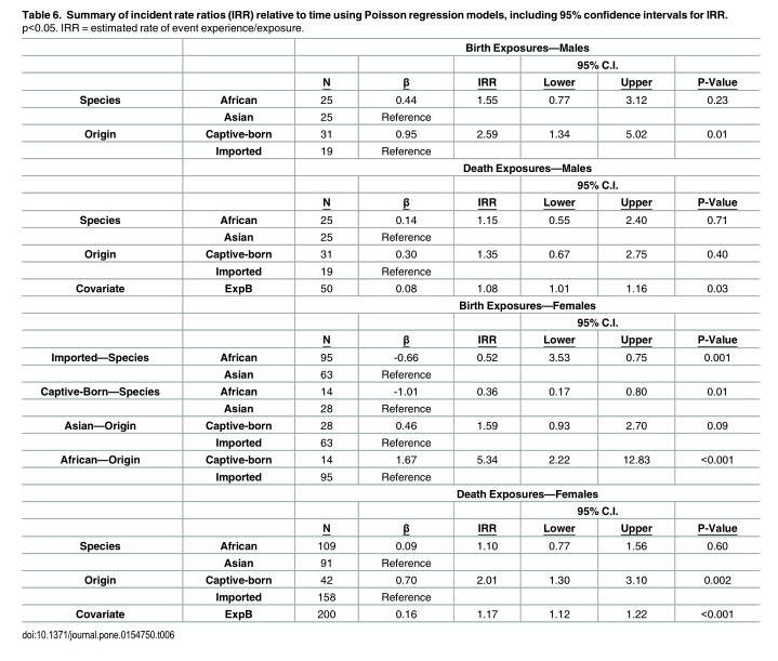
<table><thead><tr><td rowspan="3"></td><td rowspan="3"></td><td colspan="6">Birth Exposures—Males</td></tr><tr><td rowspan="2">N</td><td rowspan="2">β</td><td rowspan="2">IRR</td><td colspan="2">95% C.I.</td><td rowspan="2">P-Value</td></tr><tr><td>Lower</td><td>Upper</td></tr></thead><tbody><tr><td rowspan="2">Species</td><td>African</td><td>25</td><td>0.44</td><td>1.55</td><td>0.77</td><td>3.12</td><td>0.23</td></tr><tr><td>Asian</td><td>25</td><td>Reference</td><td></td><td></td><td></td><td></td></tr><tr><td rowspan="5">Origin</td><td>Captive-born</td><td>31</td><td>0.95</td><td>2.59</td><td>1.34</td><td>5.02</td><td>0.01</td></tr><tr><td>Imported</td><td>19</td><td>Reference</td><td></td><td></td><td></td><td></td></tr><tr><td></td><td colspan="6">Death Exposures—Males</td></tr><tr><td></td><td></td><td></td><td></td><td colspan="2">95% C.I.</td><td></td></tr><tr><td></td><td>N</td><td>β</td><td>IRR</td><td>Lower</td><td>Upper</td><td>P-Value</td></tr><tr><td rowspan="2">Species</td><td>African</td><td>25</td><td>0.14</td><td>1.15</td><td>0.55</td><td>2.40</td><td>0.71</td></tr><tr><td>Asian</td><td>25</td><td>Reference</td><td></td><td></td><td></td><td></td></tr><tr><td rowspan="2">Origin</td><td>Captive-born</td><td>31</td><td>0.30</td><td>1.35</td><td>0.67</td><td>2.75</td><td>0.40</td></tr><tr><td>Imported</td><td>19</td><td>Reference</td><td></td><td></td><td></td><td></td></tr><tr><td rowspan="4">Covariate</td><td>ExpB</td><td>50</td><td>0.08</td><td>1.08</td><td>1.01</td><td>1.16</td><td>0.03</td></tr><tr><td></td><td colspan="6">Birth Exposures—Females</td></tr><tr><td></td><td></td><td></td><td></td><td colspan="2">95% C.I.</td><td></td></tr><tr><td></td><td>N</td><td>β</td><td>IRR</td><td>Lower</td><td>Upper</td><td>P-Value</td></tr><tr><td rowspan="2">Imported—Species</td><td>African</td><td>95</td><td>-0.66</td><td>0.52</td><td>3.53</td><td>0.75</td><td>0.001</td></tr><tr><td>Asian</td><td>63</td><td>Reference</td><td></td><td></td><td></td><td></td></tr><tr><td rowspan="2">Captive-Born—Species</td><td>African</td><td>14</td><td>-1.01</td><td>0.36</td><td>0.17</td><td>0.80</td><td>0.01</td></tr><tr><td>Asian</td><td>28</td><td>Reference</td><td></td><td></td><td></td><td></td></tr><tr><td rowspan="2">Asian—Origin</td><td>Captive-born</td><td>28</td><td>0.46</td><td>1.59</td><td>0.93</td><td>2.70</td><td>0.09</td></tr><tr><td>Imported</td><td>63</td><td>Reference</td><td></td><td></td><td></td><td></td></tr><tr><td rowspan="5">African—Origin</td><td>Captive-born</td><td>14</td><td>1.67</td><td>5.34</td><td>2.22</td><td>12.83</td><td>&lt;0.001</td></tr><tr><td>Imported</td><td>95</td><td>Reference</td><td></td><td></td><td></td><td></td></tr><tr><td></td><td colspan="6">Death Exposures—Females</td></tr><tr><td></td><td></td><td></td><td></td><td colspan="2">95% C.I.</td><td></td></tr><tr><td></td><td>N</td><td>β</td><td>IRR</td><td>Lower</td><td>Upper</td><td>P-Value</td></tr><tr><td rowspan="2">Species</td><td>African</td><td>109</td><td>0.09</td><td>1.10</td><td>0.77</td><td>1.56</td><td>0.60</td></tr><tr><td>Asian</td><td>91</td><td>Reference</td><td></td><td></td><td></td><td></td></tr><tr><td rowspan="2">Origin</td><td>Captive-born</td><td>42</td><td>0.70</td><td>2.01</td><td>1.30</td><td>3.10</td><td>0.002</td></tr><tr><td>Imported</td><td>158</td><td>Reference</td><td></td><td></td><td></td><td></td></tr><tr><td>Covariate</td><td>ExpB</td><td>200</td><td>0.16</td><td>1.17</td><td>1.12</td><td>1.22</td><td>&lt;0.001</td></tr></tbody></table>